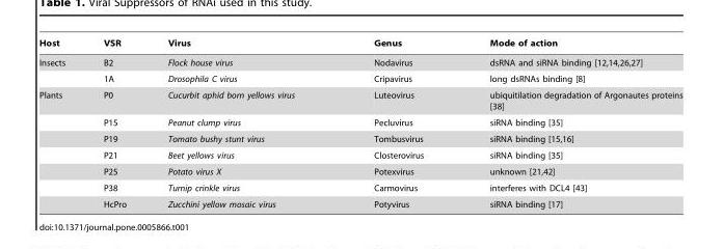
<table><thead><tr><td>Host</td><td>VSR</td><td>Virus</td><td>Genus</td><td>Mode of action</td></tr></thead><tbody><tr><td rowspan="2">Insects</td><td>B2</td><td>Flock house virus</td><td>Nodavirus</td><td>dsRNA and siRNA binding [12,14,26,27]</td></tr><tr><td>1A</td><td>Drosophila C virus</td><td>Cripavirus</td><td>long dsRNAs binding [8]</td></tr><tr><td rowspan="7">Plants</td><td>P0</td><td>Cucurbit aphid born yellows virus</td><td>Luteovirus</td><td>ubiquitilation degradation of Argonautes proteins [38]</td></tr><tr><td>P15</td><td>Peanut clump virus</td><td>Pecluvirus</td><td>siRNA binding [35]</td></tr><tr><td>P19</td><td>Tomato bushy stunt virus</td><td>Tombusvirus</td><td>siRNA binding [15,16]</td></tr><tr><td>P21</td><td>Beet yellows virus</td><td>Closterovirus</td><td>siRNA binding [35]</td></tr><tr><td>P25</td><td>Potato virus X</td><td>Potexvirus</td><td>unknown [21,42]</td></tr><tr><td>P38</td><td>Turnip crinkle virus</td><td>Carmovirus</td><td>interferes with DCL4 [43]</td></tr><tr><td>HcPro</td><td>Zucchini yellow mosaic virus</td><td>Potyvirus</td><td>siRNA binding [17]</td></tr></tbody></table>